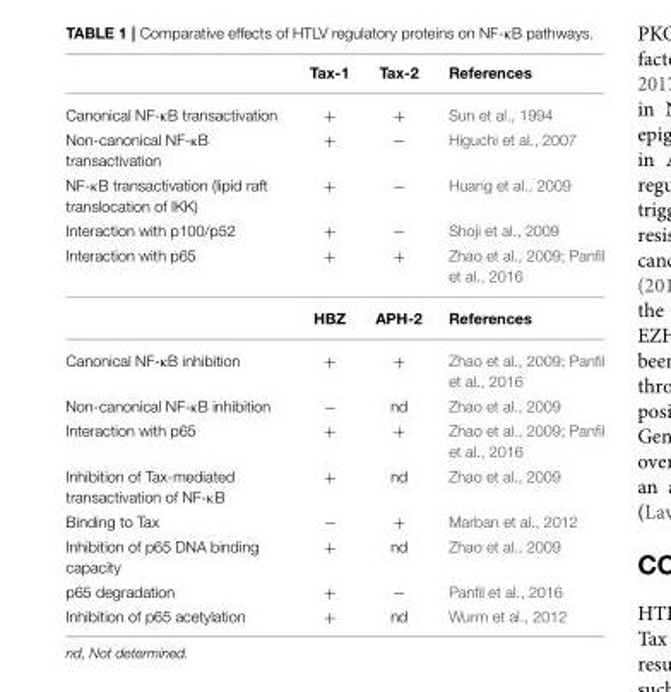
<table><thead><tr><td></td><td>Tax-1</td><td>Tax-2</td><td>References</td></tr></thead><tbody><tr><td>Canonical NF-κB transactivation</td><td>+</td><td>+</td><td>Sun et al., 1994</td></tr><tr><td>Non-canonical NF-κB transactivation</td><td>+</td><td>−</td><td>Higuchi et al., 2007</td></tr><tr><td>NF-κB transactivation (lipid raft translocation of IKK)</td><td>+</td><td>−</td><td>Huang et al., 2009</td></tr><tr><td>Interaction with p100/p52</td><td>+</td><td>−</td><td>Shoji et al., 2009</td></tr><tr><td rowspan="2">Interaction with p65</td><td>+</td><td>+</td><td>Zhao et al., 2009; Panfil et al., 2016</td></tr><tr><td>HBZ</td><td>APH-2</td><td>References</td></tr><tr><td>Canonical NF-κB inhibition</td><td>+</td><td>+</td><td>Zhao et al., 2009; Panfil et al., 2016</td></tr><tr><td>Non-canonical NF-κB inhibition</td><td>−</td><td>nd</td><td>Zhao et al., 2009</td></tr><tr><td>Interaction with p65</td><td>+</td><td>+</td><td>Zhao et al., 2009; Panfil et al., 2016</td></tr><tr><td>Inhibition of Tax-mediated transactivation of NF-κB</td><td>+</td><td>nd</td><td>Zhao et al., 2009</td></tr><tr><td>Binding to Tax</td><td>−</td><td>+</td><td>Marban et al., 2012</td></tr><tr><td>Inhibition of p65 DNA binding capacity</td><td>+</td><td>nd</td><td>Zhao et al., 2009</td></tr><tr><td>p65 degradation</td><td>+</td><td>−</td><td>Panfil et al., 2016</td></tr><tr><td>Inhibition of p65 acetylation</td><td>+</td><td>nd</td><td>Wurm et al., 2012</td></tr></tbody></table>